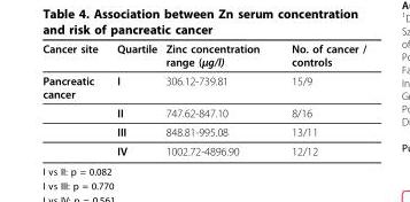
<table><thead><tr><td>Cancer site</td><td>Quartile</td><td>Zinc concentration range (µg/l)</td><td>No. of cancer / controls</td></tr></thead><tbody><tr><td rowspan="4">Pancreatic cancer</td><td>I</td><td>306.12-739.81</td><td>15/9</td></tr><tr><td>II</td><td>747.62-847.10</td><td>8/16</td></tr><tr><td>III</td><td>848.81-995.08</td><td>13/11</td></tr><tr><td>IV</td><td>1002.72-4896.90</td><td>12/12</td></tr></tbody></table>